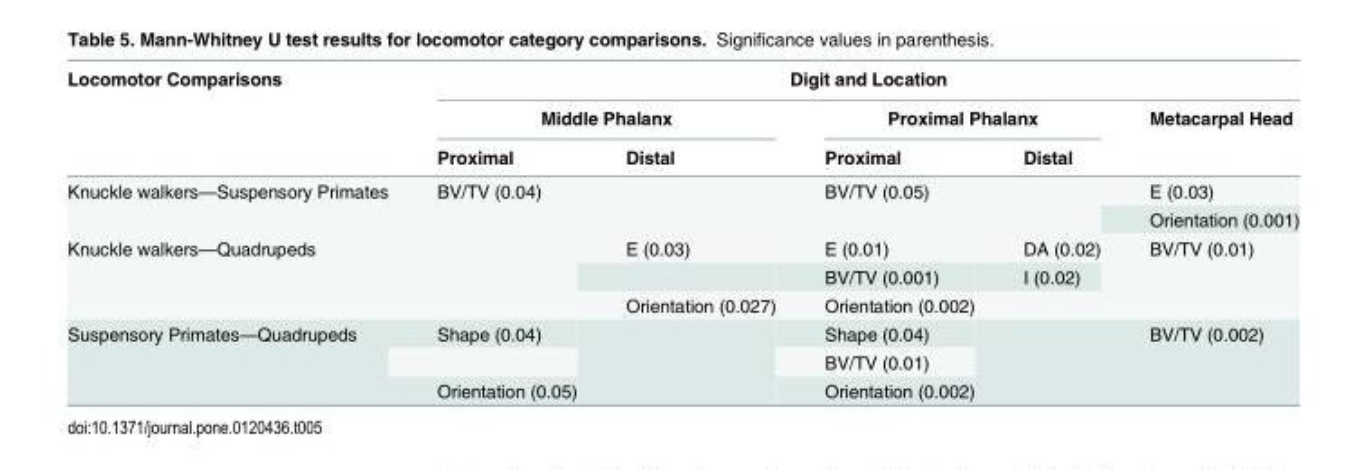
<table><thead><tr><td rowspan="3">Locomotor Comparisons</td><td colspan="5">Digit and Location</td></tr><tr><td colspan="2">Middle Phalanx</td><td colspan="2">Proximal Phalanx</td><td rowspan="2">Metacarpal Head</td></tr><tr><td>Proximal</td><td>Distal</td><td>Proximal</td><td>Distal</td></tr></thead><tbody><tr><td rowspan="2">Knuckle walkers—Suspensory Primates</td><td rowspan="2">BV/TV (0.04)</td><td rowspan="2"></td><td rowspan="2">BV/TV (0.05)</td><td rowspan="2"></td><td>E (0.03)</td></tr><tr><td>Orientation (0.001)</td></tr><tr><td rowspan="3">Knuckle walkers—Quadrupeds</td><td rowspan="3"></td><td>E (0.03)</td><td>E (0.01)</td><td>DA (0.02)</td><td rowspan="3">BV/TV (0.01)</td></tr><tr><td></td><td>BV/TV (0.001)</td><td>I (0.02)</td></tr><tr><td>Orientation (0.027)</td><td>Orientation (0.002)</td><td></td></tr><tr><td rowspan="3">Suspensory Primates—Quadrupeds</td><td>Shape (0.04)</td><td rowspan="3"></td><td>Shape (0.04)</td><td rowspan="3"></td><td rowspan="3">BV/TV (0.002)</td></tr><tr><td></td><td>BV/TV (0.01)</td></tr><tr><td>Orientation (0.05)</td><td>Orientation (0.002)</td></tr></tbody></table>